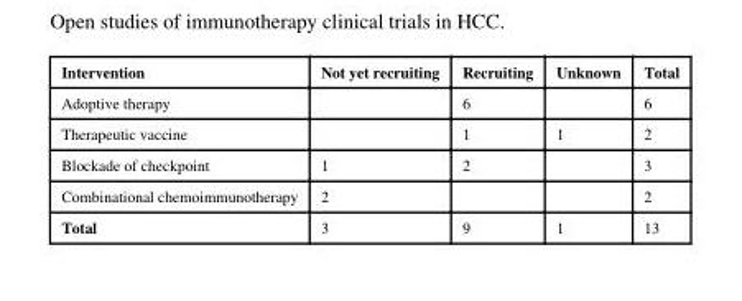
<table><thead><tr><td>Intervention</td><td>Not yet recruiting</td><td>Recruiting</td><td>Unknown</td><td>Total</td></tr></thead><tbody><tr><td>Adoptive therapy</td><td></td><td>6</td><td></td><td>6</td></tr><tr><td>Therapeutic vaccine</td><td></td><td>1</td><td>1</td><td>2</td></tr><tr><td>Blockade of checkpoint</td><td>1</td><td>2</td><td></td><td>3</td></tr><tr><td>Combinational chemoimmunotherapy</td><td>2</td><td></td><td></td><td>2</td></tr><tr><td>Total</td><td>3</td><td>9</td><td>1</td><td>13</td></tr></tbody></table>